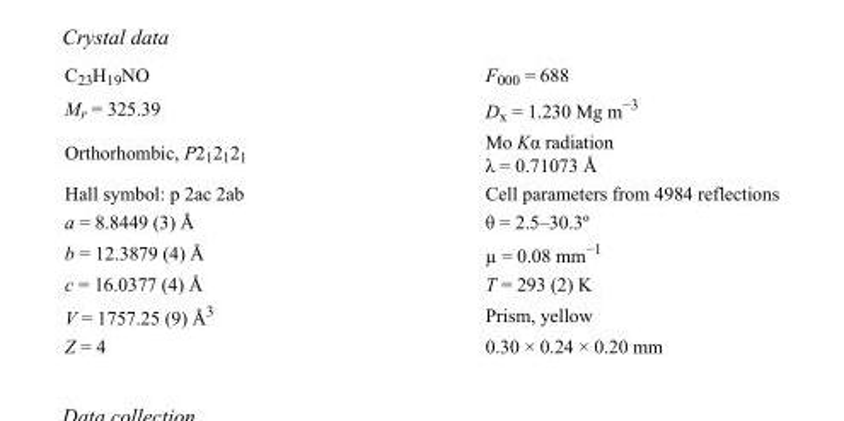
<table><tbody><tr><td>C<sub>23</sub>H<sub>19</sub>NO</td><td>F<sub>000</sub> = 688</td></tr><tr><td>M<sub>r</sub> = 325.39</td><td>D<sub>x</sub> = 1.230 Mg m<sup>−3</sup></td></tr><tr><td>Orthorhombic, P2<sub>1</sub>2<sub>1</sub>2<sub>1</sub></td><td>Mo Kα radiation λ = 0.71073 Å</td></tr><tr><td>Hall symbol: p 2ac 2ab</td><td>Cell parameters from 4984 reflections</td></tr><tr><td>a = 8.8449 (3) Å</td><td>θ = 2.5–30.3º</td></tr><tr><td>b = 12.3879 (4) Å</td><td>µ = 0.08 mm<sup>−1</sup></td></tr><tr><td>c = 16.0377 (4) Å</td><td>T = 293 (2) K</td></tr><tr><td>V = 1757.25 (9) Å<sup>3</sup></td><td>Prism, yellow</td></tr><tr><td>Z = 4</td><td>0.30 × 0.24 × 0.20 mm</td></tr></tbody></table>